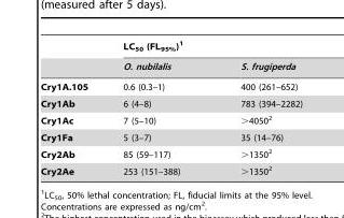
<table><thead><tr><td rowspan="2"></td><td colspan="2">LC<sub>50</sub> (FL<sub>95%</sub>)<sup>1</sup></td></tr><tr><td>O. nubilalis</td><td>S. frugiperda</td></tr></thead><tbody><tr><td>Cry1A.105</td><td>0.6 (0.3–1)</td><td>400 (261–652)</td></tr><tr><td>Cry1Ab</td><td>6 (4–8)</td><td>783 (394–2282)</td></tr><tr><td>Cry1Ac</td><td>7 (5–10)</td><td>&gt;4050<sup>2</sup></td></tr><tr><td>Cry1Fa</td><td>5 (3–7)</td><td>35 (14–76)</td></tr><tr><td>Cry2Ab</td><td>85 (59–117)</td><td>&gt;1350<sup>2</sup></td></tr><tr><td>Cry2Ae</td><td>253 (151–388)</td><td>&gt;1350<sup>2</sup></td></tr></tbody></table>